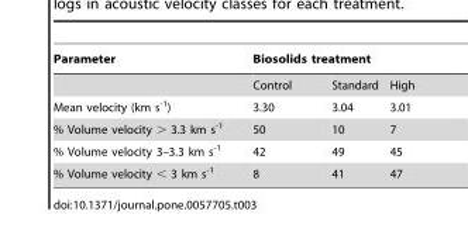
<table><thead><tr><td rowspan="2">Parameter</td><td colspan="3">Biosolids treatment</td></tr><tr><td>Control</td><td>Standard</td><td>High</td></tr></thead><tbody><tr><td>Mean velocity (km s<sup>-1</sup>)</td><td>3.30</td><td>3.04</td><td>3.01</td></tr><tr><td>% Volume velocity &gt; 3.3 km s<sup>-1</sup></td><td>50</td><td>10</td><td>7</td></tr><tr><td>% Volume velocity 3–3.3 km s<sup>-1</sup></td><td>42</td><td>49</td><td>45</td></tr><tr><td>% Volume velocity &lt; 3 km s<sup>-1</sup></td><td>8</td><td>41</td><td>47</td></tr></tbody></table>